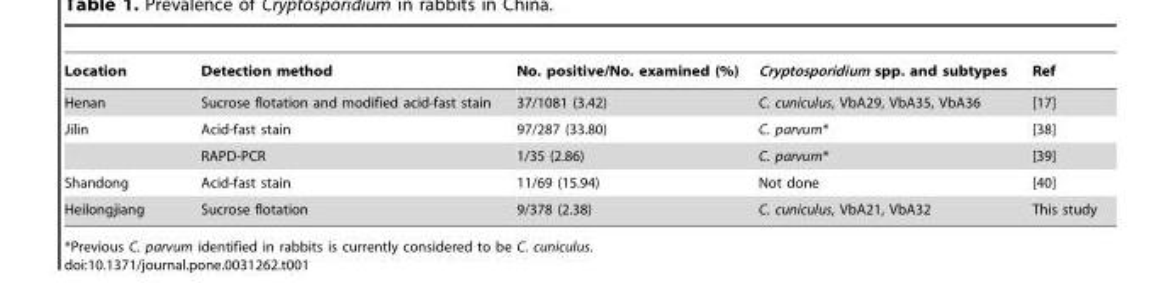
<table><thead><tr><td>Location</td><td>Detection method</td><td>No. positive/No. examined (%)</td><td>Cryptosporidium spp. and subtypes</td><td>Ref</td></tr></thead><tbody><tr><td>Henan</td><td>Sucrose flotation and modified acid-fast stain</td><td>37/1081 (3.42)</td><td>C. cuniculus, VbA29, VbA35, VbA36</td><td>[17]</td></tr><tr><td rowspan="2">Jilin</td><td>Acid-fast stain</td><td>97/287 (33.80)</td><td>C. parvum*</td><td>[38]</td></tr><tr><td>RAPD-PCR</td><td>1/35 (2.86)</td><td>C. parvum*</td><td>[39]</td></tr><tr><td>Shandong</td><td>Acid-fast stain</td><td>11/69 (15.94)</td><td>Not done</td><td>[40]</td></tr><tr><td>Heilongjiang</td><td>Sucrose flotation</td><td>9/378 (2.38)</td><td>C. cuniculus, VbA21, VbA32</td><td>This study</td></tr></tbody></table>